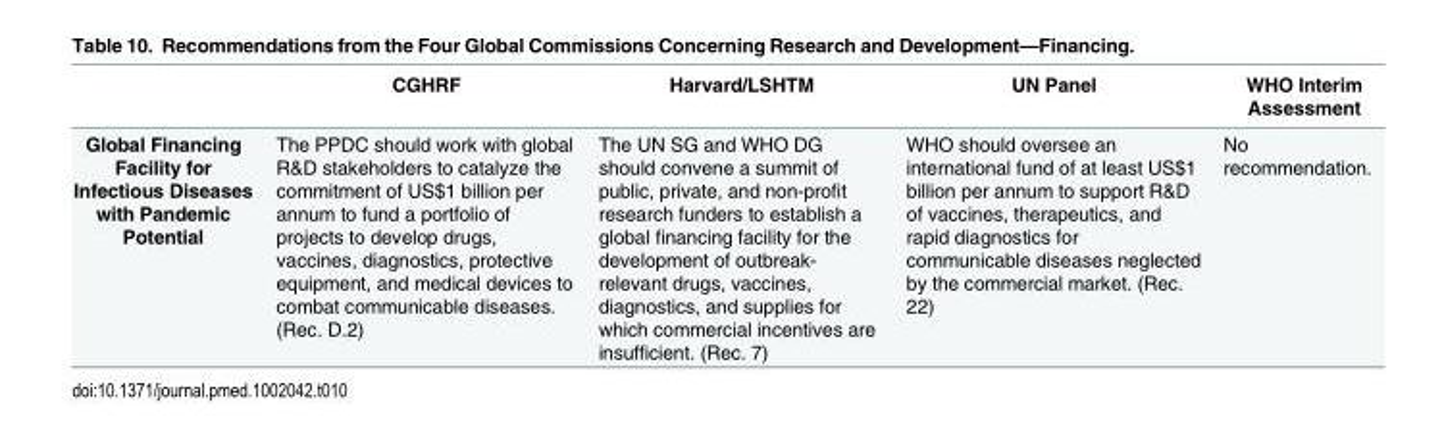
<table><thead><tr><td></td><td>CGHRF</td><td>Harvard/LSHTM</td><td>UN Panel</td><td>WHO Interim Assessment</td></tr></thead><tbody><tr><td>Global Financing Facility for Infectious Diseases with Pandemic Potential</td><td>The PPDC should work with global R&amp;D stakeholders to catalyze the commitment of US$1 billion per annum to fund a portfolio of projects to develop drugs, vaccines, diagnostics, protective equipment, and medical devices to combat communicable diseases. (Rec. D.2)</td><td>The UN SG and WHO DG should convene a summit of public, private, and non-profit research funders to establish a global financing facility for the development of outbreak- relevant drugs, vaccines, diagnostics, and supplies for which commercial incentives are insufficient. (Rec. 7)</td><td>WHO should oversee an international fund of at least US$1 billion per annum to support R&amp;D of vaccines, therapeutics, and rapid diagnostics for communicable diseases neglected by the commercial market. (Rec. 22)</td><td>No recommendation.</td></tr></tbody></table>